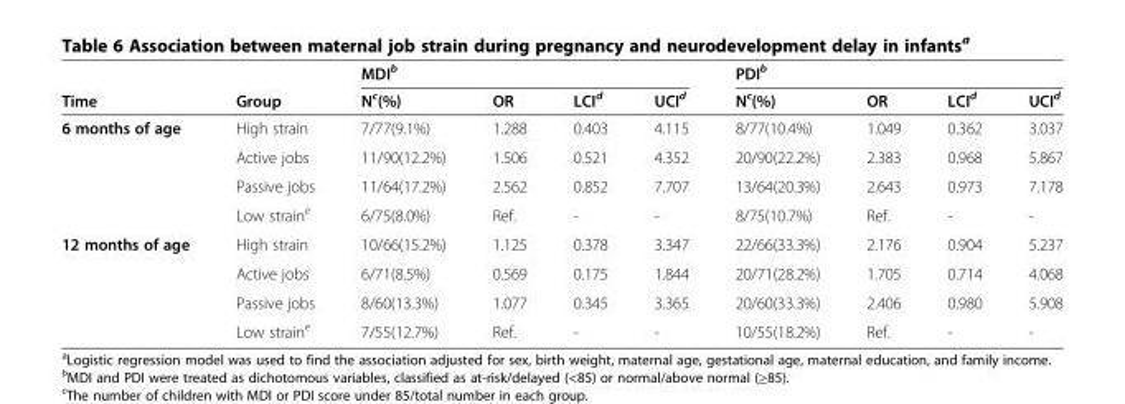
<table><thead><tr><td rowspan="2">Time</td><td rowspan="2">Group</td><td colspan="4">MDI<sup>b</sup></td><td colspan="4">PDI<sup>b</sup></td></tr><tr><td>N<sup>c</sup>(%)</td><td>OR</td><td>LCI<sup>d</sup></td><td>UCI<sup>d</sup></td><td>N<sup>c</sup>(%)</td><td>OR</td><td>LCI<sup>d</sup></td><td>UCI<sup>d</sup></td></tr></thead><tbody><tr><td rowspan="4">6 months of age</td><td>High strain</td><td>7/77(9.1%)</td><td>1.288</td><td>0.403</td><td>4.115</td><td>8/77(10.4%)</td><td>1.049</td><td>0.362</td><td>3.037</td></tr><tr><td>Active jobs</td><td>11/90(12.2%)</td><td>1.506</td><td>0.521</td><td>4.352</td><td>20/90(22.2%)</td><td>2.383</td><td>0.968</td><td>5.867</td></tr><tr><td>Passive jobs</td><td>11/64(17.2%)</td><td>2.562</td><td>0.852</td><td>7.707</td><td>13/64(20.3%)</td><td>2.643</td><td>0.973</td><td>7.178</td></tr><tr><td>Low strain<sup>e</sup></td><td>6/75(8.0%)</td><td>Ref.</td><td>-</td><td>-</td><td>8/75(10.7%)</td><td>Ref.</td><td>-</td><td>-</td></tr><tr><td rowspan="4">12 months of age</td><td>High strain</td><td>10/66(15.2%)</td><td>1.125</td><td>0.378</td><td>3.347</td><td>22/66(33.3%)</td><td>2.176</td><td>0.904</td><td>5.237</td></tr><tr><td>Active jobs</td><td>6/71(8.5%)</td><td>0.569</td><td>0.175</td><td>1.844</td><td>20/71(28.2%)</td><td>1.705</td><td>0.714</td><td>4.068</td></tr><tr><td>Passive jobs</td><td>8/60(13.3%)</td><td>1.077</td><td>0.345</td><td>3.365</td><td>20/60(33.3%)</td><td>2.406</td><td>0.980</td><td>5.908</td></tr><tr><td>Low strain<sup>e</sup></td><td>7/55(12.7%)</td><td>Ref.</td><td>-</td><td>-</td><td>10/55(18.2%)</td><td>Ref.</td><td>-</td><td>-</td></tr></tbody></table>